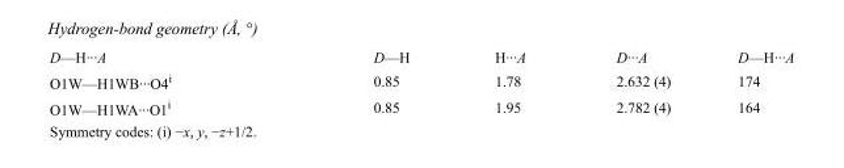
<table><tbody><tr><td>D—H···A</td><td>D—H</td><td>H···A</td><td>D···A</td><td>D—H···A</td></tr><tr><td>O1W—H1WB···O4<sup>i</sup></td><td>0.85</td><td>1.78</td><td>2.632 (4)</td><td>174</td></tr><tr><td>O1W—H1WA···O1<sup>i</sup></td><td>0.85</td><td>1.95</td><td>2.782 (4)</td><td>164</td></tr></tbody></table>